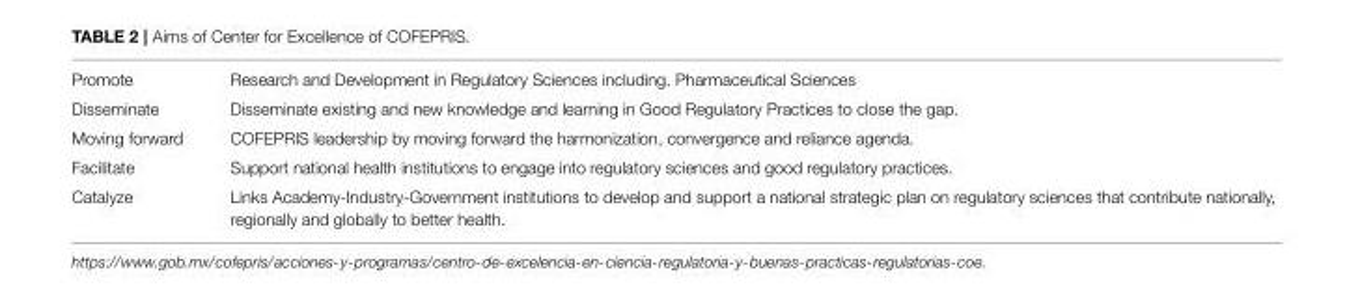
<table><tbody><tr><td>Promote</td><td>Research and Development in Regulatory Sciences including. Pharmaceutical Sciences</td></tr><tr><td>Disseminate</td><td>Disseminate existing and new knowledge and learning in Good Regulatory Practices to close the gap.</td></tr><tr><td>Moving forward</td><td>COFEPRIS leadership by moving forward the harmonization, convergence and reliance agenda.</td></tr><tr><td>Facilitate</td><td>Support national health institutions to engage into regulatory sciences and good regulatory practices.</td></tr><tr><td>Catalyze</td><td>Links Academy-Industry-Government institutions to develop and support a national strategic plan on regulatory sciences that contribute nationally, regionally and globally to better health.</td></tr></tbody></table>